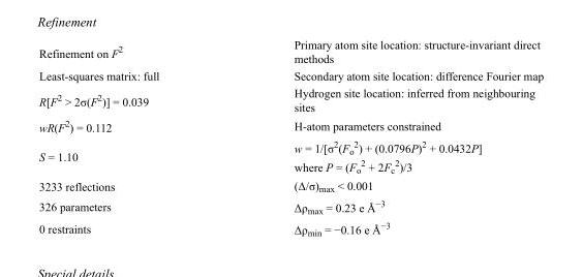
<table><tbody><tr><td>Refinement on F<sup>2</sup></td><td>Primary atom site location: structure-invariant direct methods</td></tr><tr><td>Least-squares matrix: full</td><td>Secondary atom site location: difference Fourier map</td></tr><tr><td>R[F<sup>2</sup> &gt; 2σ(F<sup>2</sup>)] = 0.039</td><td>Hydrogen site location: inferred from neighbouring sites</td></tr><tr><td>wR(F<sup>2</sup>) = 0.112</td><td>H-atom parameters constrained</td></tr><tr><td>S = 1.10</td><td>w = 1/[σ<sup>2</sup>(F<sub>o</sub> <sup>2</sup>) + (0.0796P)<sup>2</sup> + 0.0432P] where P = (F<sub>o</sub> <sup>2</sup> + 2F<sub>c</sub> <sup>2</sup>)/3</td></tr><tr><td>3233 reflections</td><td>(Δ/σ)<sub>max</sub> &lt; 0.001</td></tr><tr><td>326 parameters</td><td>Δρ<sub>max</sub> = 0.23 e Å<sup>−3</sup></td></tr><tr><td>0 restraints</td><td>Δρ<sub>min</sub> = −0.16 e Å<sup>−3</sup></td></tr></tbody></table>